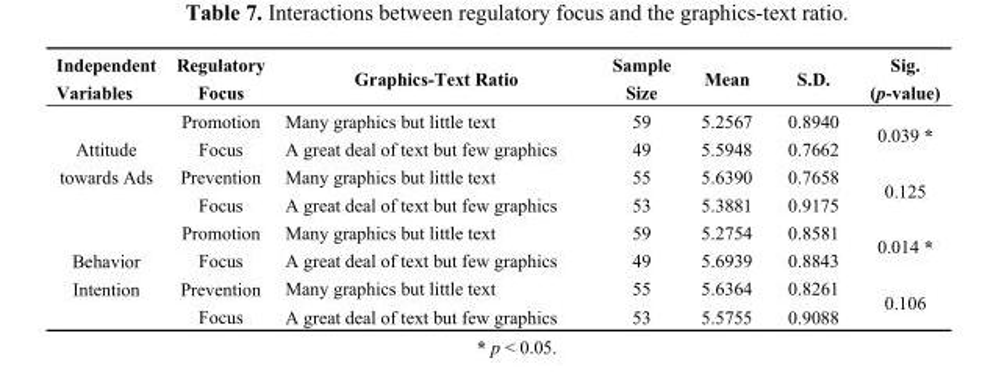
<table><thead><tr><td>Independent Variables</td><td>Regulatory Focus</td><td>Graphics-Text Ratio</td><td>Sample Size</td><td>Mean</td><td>S.D.</td><td>Sig. (p-value)</td></tr></thead><tbody><tr><td rowspan="4">Attitude towards Ads</td><td rowspan="2">Promotion Focus</td><td>Many graphics but little text</td><td>59</td><td>5.2567</td><td>0.8940</td><td rowspan="2">0.039 *</td></tr><tr><td>A great deal of text but few graphics</td><td>49</td><td>5.5948</td><td>0.7662</td></tr><tr><td rowspan="2">Prevention Focus</td><td>Many graphics but little text</td><td>55</td><td>5.6390</td><td>0.7658</td><td rowspan="2">0.125</td></tr><tr><td>A great deal of text but few graphics</td><td>53</td><td>5.3881</td><td>0.9175</td></tr><tr><td rowspan="4">Behavior Intention</td><td rowspan="2">Promotion Focus</td><td>Many graphics but little text</td><td>59</td><td>5.2754</td><td>0.8581</td><td rowspan="2">0.014 *</td></tr><tr><td>A great deal of text but few graphics</td><td>49</td><td>5.6939</td><td>0.8843</td></tr><tr><td rowspan="2">Prevention Focus</td><td>Many graphics but little text</td><td>55</td><td>5.6364</td><td>0.8261</td><td rowspan="2">0.106</td></tr><tr><td>A great deal of text but few graphics</td><td>53</td><td>5.5755</td><td>0.9088</td></tr></tbody></table>